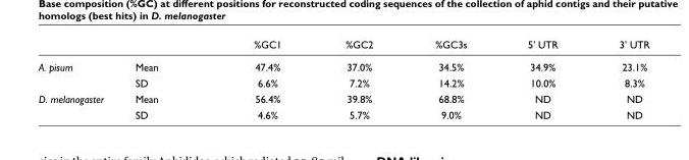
<table><thead><tr><td></td><td></td><td>%GC1</td><td>%GC2</td><td>%GC3s</td><td>5&#x27; UTR</td><td>3&#x27; UTR</td></tr></thead><tbody><tr><td rowspan="2">A. pisum</td><td>Mean</td><td>47.4%</td><td>37.0%</td><td>34.5%</td><td>34.9%</td><td>23.1%</td></tr><tr><td>SD</td><td>6.6%</td><td>7.2%</td><td>14.2%</td><td>10.0%</td><td>8.3%</td></tr><tr><td rowspan="2">D. melanogaster</td><td>Mean</td><td>56.4%</td><td>39.8%</td><td>68.8%</td><td>ND</td><td>ND</td></tr><tr><td>SD</td><td>4.6%</td><td>5.7%</td><td>9.0%</td><td>ND</td><td>ND</td></tr></tbody></table>